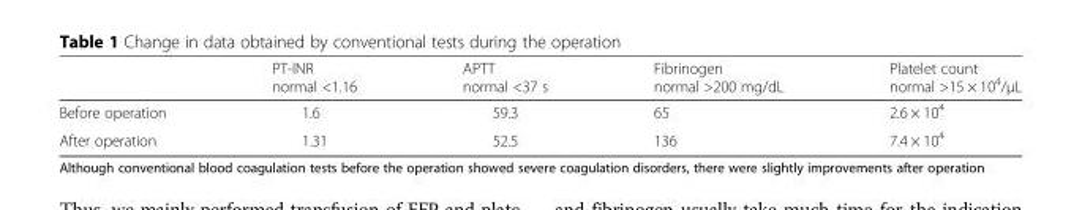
<table><thead><tr><td></td><td>PT-INR normal &lt;1.16</td><td>APTT normal &lt;37 s</td><td>Fibrinogen normal &gt;200 mg/dL</td><td>Platelet count normal &gt;15 × 10<sup>4</sup>/μL</td></tr></thead><tbody><tr><td>Before operation</td><td>1.6</td><td>59.3</td><td>65</td><td>2.6 × 10<sup>4</sup></td></tr><tr><td>After operation</td><td>1.31</td><td>52.5</td><td>136</td><td>7.4 × 10<sup>4</sup></td></tr></tbody></table>